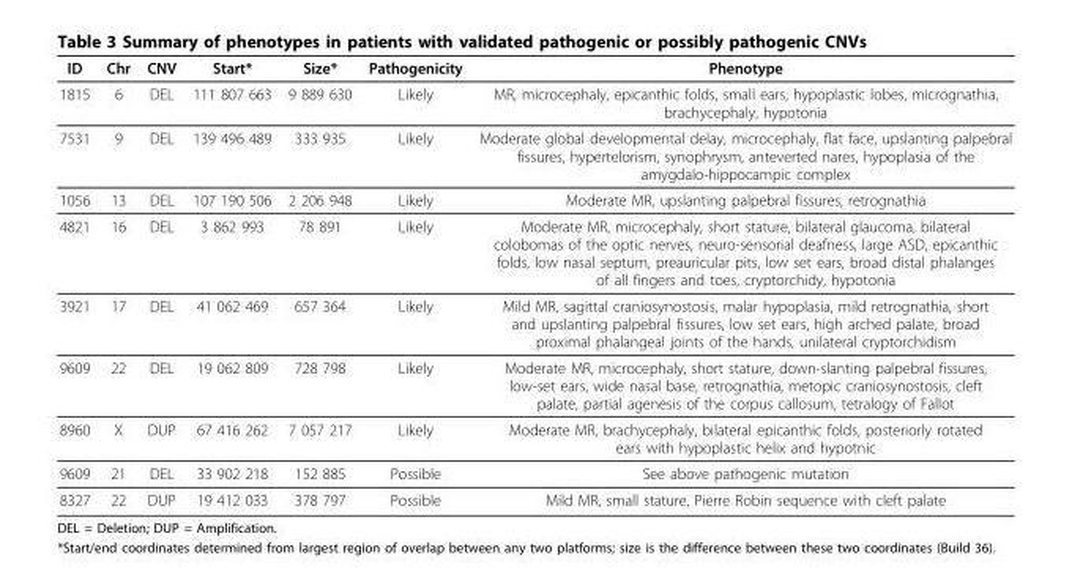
<table><thead><tr><td>ID</td><td>Chr</td><td>CNV</td><td>Start*</td><td>Size*</td><td>Pathogenicity</td><td>Phenotype</td></tr></thead><tbody><tr><td>1815</td><td>6</td><td>DEL</td><td>111 807 663</td><td>9 889 630</td><td>Likely</td><td>MR, microcephaly, epicanthic folds, small ears, hypoplastic lobes, micrognathia, brachycephaly, hypotonia</td></tr><tr><td>7531</td><td>9</td><td>DEL</td><td>139 496 489</td><td>333 935</td><td>Likely</td><td>Moderate global developmental delay, microcephaly, flat face, upslanting palpebral fissures, hypertelorism, synophrysm, anteverted nares, hypoplasia of the amygdalo-hippocampic complex</td></tr><tr><td>1056</td><td>13</td><td>DEL</td><td>107 190 506</td><td>2 206 948</td><td>Likely</td><td>Moderate MR, upslanting palpebral fissures, retrognathia</td></tr><tr><td>4821</td><td>16</td><td>DEL</td><td>3 862 993</td><td>78 891</td><td>Likely</td><td>Moderate MR, microcephaly, short stature, bilateral glaucoma, bilateral colobomas of the optic nerves, neuro-sensorial deafness, large ASD, epicanthic folds, low nasal septum, preauricular pits, low set ears, broad distal phalanges of all fingers and toes, cryptorchidy, hypotonia</td></tr><tr><td>3921</td><td>17</td><td>DEL</td><td>41 062 469</td><td>657 364</td><td>Likely</td><td>Mild MR, sagittal craniosynostosis, malar hypoplasia, mild retrognathia, short and upslanting palpebral fissures, low set ears, high arched palate, broad proximal phalangeal joints of the hands, unilateral cryptorchidism</td></tr><tr><td>9609</td><td>22</td><td>DEL</td><td>19 062 809</td><td>728 798</td><td>Likely</td><td>Moderate MR, microcephaly, short stature, down-slanting palpebral fissures, low-set ears, wide nasal base, retrognathia, metopic craniosynostosis, cleft palate, partial agenesis of the corpus callosum, tetralogy of Fallot</td></tr><tr><td>8960</td><td>X</td><td>DUP</td><td>67 416 262</td><td>7 057 217</td><td>Likely</td><td>Moderate MR, brachycephaly, bilateral epicanthic folds, posteriorly rotated ears with hypoplastic helix and hypotnic</td></tr><tr><td>9609</td><td>21</td><td>DEL</td><td>33 902 218</td><td>152 885</td><td>Possible</td><td>See above pathogenic mutation</td></tr><tr><td>8327</td><td>22</td><td>DUP</td><td>19 412 033</td><td>378 797</td><td>Possible</td><td>Mild MR, small stature, Pierre Robin sequence with cleft palate</td></tr></tbody></table>